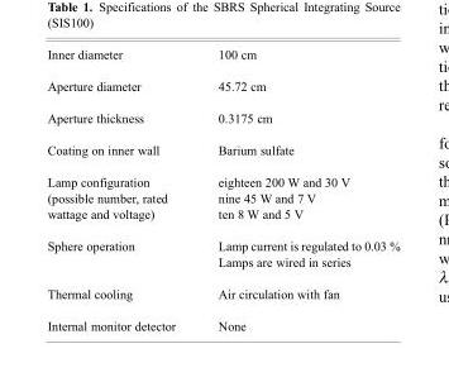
<table><tbody><tr><td>Inner diameter</td><td>100 cm</td></tr><tr><td>Aperture diameter</td><td>45.72 cm</td></tr><tr><td>Aperture thickness</td><td>0.3175 cm</td></tr><tr><td>Coating on inner wall</td><td>Barium sulfate</td></tr><tr><td>Lamp configuration (possible number, rated wattage and voltage)</td><td>eighteen 200 W and 30 V nine 45 W and 7 V ten 8 W and 5 V</td></tr><tr><td>Sphere operation</td><td>Lamp current is regulated to 0.03 % Lamps are wired in series</td></tr><tr><td>Thermal cooling</td><td>Air circulation with fan</td></tr><tr><td>Internal monitor detector</td><td>None</td></tr></tbody></table>